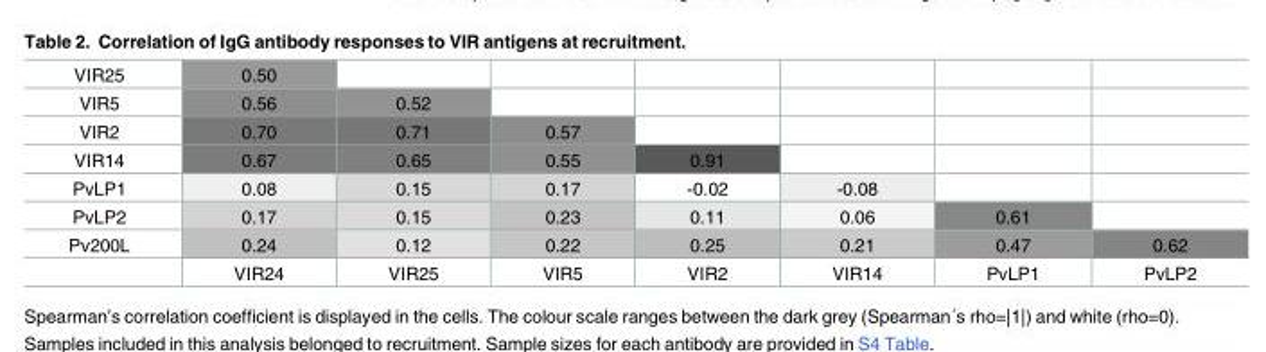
<table><tbody><tr><td>VIR25</td><td>0.50</td><td></td><td></td><td></td><td></td><td></td><td></td></tr><tr><td>VIR5</td><td>0.56</td><td>0.52</td><td></td><td></td><td></td><td></td><td></td></tr><tr><td>VIR2</td><td>0.70</td><td>0.71</td><td>0.57</td><td></td><td></td><td></td><td></td></tr><tr><td>VIR14</td><td>0.67</td><td>0.65</td><td>0.55</td><td>0.91</td><td></td><td></td><td></td></tr><tr><td>PvLP1</td><td>0.08</td><td>0.15</td><td>0.17</td><td>-0.02</td><td>-0.08</td><td></td><td></td></tr><tr><td>PvLP2</td><td>0.17</td><td>0.15</td><td>0.23</td><td>0.11</td><td>0.06</td><td>0.61</td><td></td></tr><tr><td rowspan="2">Pv200L</td><td>0.24</td><td>0.12</td><td>0.22</td><td>0.25</td><td>0.21</td><td>0.47</td><td>0.62</td></tr><tr><td>VIR24</td><td>VIR25</td><td>VIR5</td><td>VIR2</td><td>VIR14</td><td>PvLP1</td><td>PvLP2</td></tr></tbody></table>